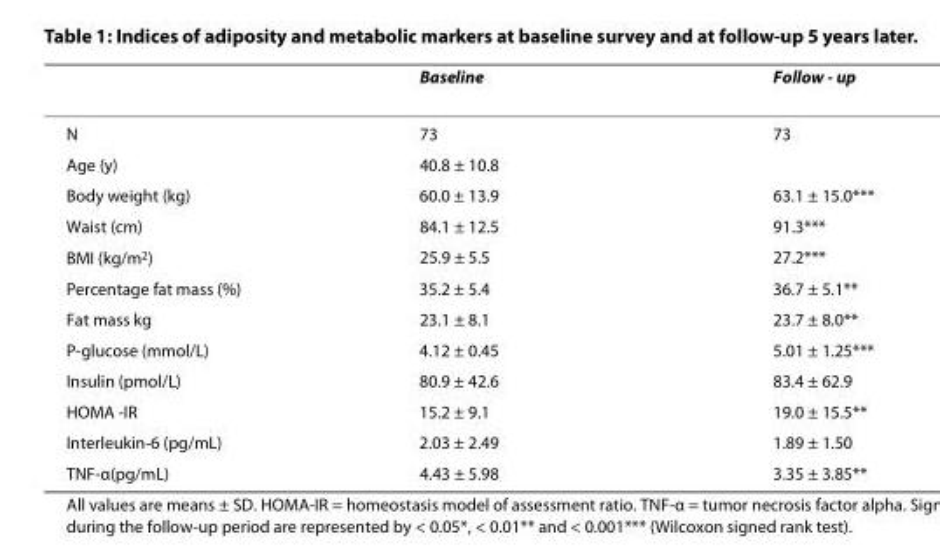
<table><thead><tr><td></td><td>Baseline</td><td>Follow - up</td></tr></thead><tbody><tr><td>N</td><td>73</td><td>73</td></tr><tr><td>Age (y)</td><td>40.8 ± 10.8</td><td></td></tr><tr><td>Body weight (kg)</td><td>60.0 ± 13.9</td><td>63.1 ± 15.0***</td></tr><tr><td>Waist (cm)</td><td>84.1 ± 12.5</td><td>91.3***</td></tr><tr><td>BMI (kg/m<sup>2</sup>)</td><td>25.9 ± 5.5</td><td>27.2***</td></tr><tr><td>Percentage fat mass (%)</td><td>35.2 ± 5.4</td><td>36.7 ± 5.1**</td></tr><tr><td>Fat mass kg</td><td>23.1 ± 8.1</td><td>23.7 ± 8.0**</td></tr><tr><td>P-glucose (mmol/L)</td><td>4.12 ± 0.45</td><td>5.01 ± 1.25***</td></tr><tr><td>Insulin (pmol/L)</td><td>80.9 ± 42.6</td><td>83.4 ± 62.9</td></tr><tr><td>HOMA -IR</td><td>15.2 ± 9.1</td><td>19.0 ± 15.5**</td></tr><tr><td>Interleukin-6 (pg/mL)</td><td>2.03 ± 2.49</td><td>1.89 ± 1.50</td></tr><tr><td>TNF-α(pg/mL)</td><td>4.43 ± 5.98</td><td>3.35 ± 3.85**</td></tr></tbody></table>